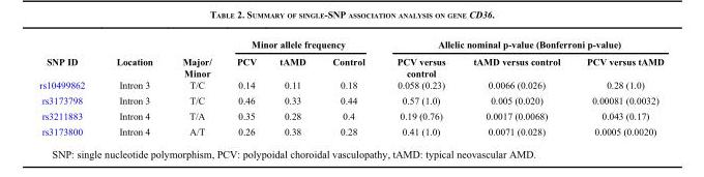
<table><thead><tr><td rowspan="2">SNP ID</td><td rowspan="2">Location</td><td rowspan="2">Major/ Minor</td><td colspan="3">Minor allele frequency</td><td colspan="3">Allelic nominal p-value (Bonferroni p-value)</td></tr><tr><td>PCV</td><td>tAMD</td><td>Control</td><td>PCV versus control</td><td>tAMD versus control</td><td>PCV versus tAMD</td></tr></thead><tbody><tr><td>rs10499862</td><td>Intron 3</td><td>T/C</td><td>0.14</td><td>0.11</td><td>0.18</td><td>0.058 (0.23)</td><td>0.0066 (0.026)</td><td>0.28 (1.0)</td></tr><tr><td>rs3173798</td><td>Intron 3</td><td>T/C</td><td>0.46</td><td>0.33</td><td>0.44</td><td>0.57 (1.0)</td><td>0.005 (0.020)</td><td>0.00081 (0.0032)</td></tr><tr><td>rs3211883</td><td>Intron 4</td><td>T/A</td><td>0.35</td><td>0.28</td><td>0.4</td><td>0.19 (0.76)</td><td>0.0017 (0.0068)</td><td>0.043 (0.17)</td></tr><tr><td>rs3173800</td><td>Intron 4</td><td>A/T</td><td>0.26</td><td>0.38</td><td>0.28</td><td>0.41 (1.0)</td><td>0.0071 (0.028)</td><td>0.0005 (0.0020)</td></tr></tbody></table>